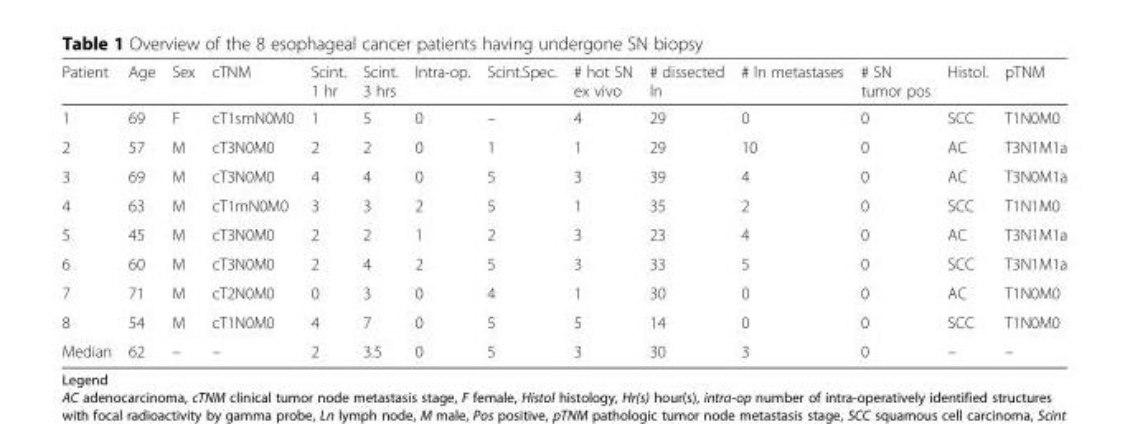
<table><thead><tr><td>Patient</td><td>Age</td><td>Sex</td><td>cTNM</td><td>Scint. 1 hr</td><td>Scint. 3 hrs</td><td>Intra-op.</td><td>Scint.Spec.</td><td># hot SN ex vivo</td><td># dissected ln</td><td># ln metastases</td><td># SN tumor pos</td><td>Histol.</td><td>pTNM</td></tr></thead><tbody><tr><td>1</td><td>69</td><td>F</td><td>cT1smN0M0</td><td>1</td><td>5</td><td>0</td><td>–</td><td>4</td><td>29</td><td>0</td><td>0</td><td>SCC</td><td>T1N0M0</td></tr><tr><td>2</td><td>57</td><td>M</td><td>cT3N0M0</td><td>2</td><td>2</td><td>0</td><td>1</td><td>1</td><td>29</td><td>10</td><td>0</td><td>AC</td><td>T3N1M1a</td></tr><tr><td>3</td><td>69</td><td>M</td><td>cT3N0M0</td><td>4</td><td>4</td><td>0</td><td>5</td><td>3</td><td>39</td><td>4</td><td>0</td><td>AC</td><td>T3N0M1a</td></tr><tr><td>4</td><td>63</td><td>M</td><td>cT1mN0M0</td><td>3</td><td>3</td><td>2</td><td>5</td><td>1</td><td>35</td><td>2</td><td>0</td><td>SCC</td><td>T1N1M0</td></tr><tr><td>5</td><td>45</td><td>M</td><td>cT3N0M0</td><td>2</td><td>2</td><td>1</td><td>2</td><td>3</td><td>23</td><td>4</td><td>0</td><td>AC</td><td>T3N1M1a</td></tr><tr><td>6</td><td>60</td><td>M</td><td>cT3N0M0</td><td>2</td><td>4</td><td>2</td><td>5</td><td>3</td><td>33</td><td>5</td><td>0</td><td>SCC</td><td>T3N1M1a</td></tr><tr><td>7</td><td>71</td><td>M</td><td>cT2N0M0</td><td>0</td><td>3</td><td>0</td><td>4</td><td>1</td><td>30</td><td>0</td><td>0</td><td>AC</td><td>T1N0M0</td></tr><tr><td>8</td><td>54</td><td>M</td><td>cT1N0M0</td><td>4</td><td>7</td><td>0</td><td>5</td><td>5</td><td>14</td><td>0</td><td>0</td><td>SCC</td><td>T1N0M0</td></tr><tr><td>Median</td><td>62</td><td>–</td><td>–</td><td>2</td><td>3.5</td><td>0</td><td>5</td><td>3</td><td>30</td><td>3</td><td>0</td><td>–</td><td>–</td></tr></tbody></table>